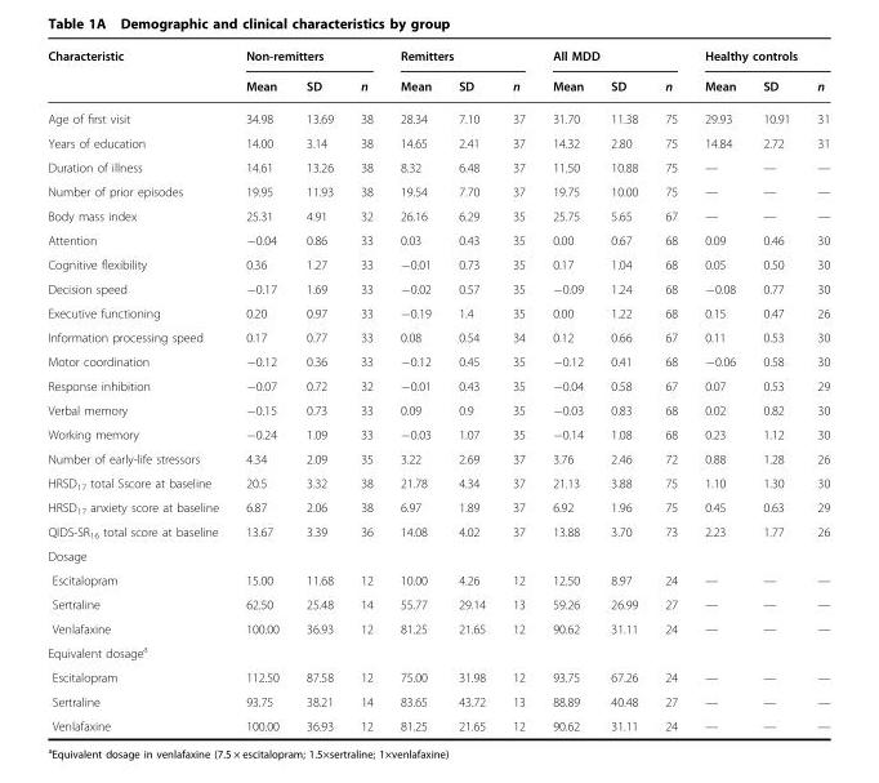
<table><thead><tr><td rowspan="2">Characteristic</td><td colspan="3">Non-remitters</td><td colspan="3">Remitters</td><td colspan="3">All MDD</td><td colspan="3">Healthy controls</td></tr><tr><td>Mean</td><td>SD</td><td>n</td><td>Mean</td><td>SD</td><td>n</td><td>Mean</td><td>SD</td><td>n</td><td>Mean</td><td>SD</td><td>n</td></tr></thead><tbody><tr><td>Age of first visit</td><td>34.98</td><td>13.69</td><td>38</td><td>28.34</td><td>7.10</td><td>37</td><td>31.70</td><td>11.38</td><td>75</td><td>29.93</td><td>10.91</td><td>31</td></tr><tr><td>Years of education</td><td>14.00</td><td>3.14</td><td>38</td><td>14.65</td><td>2.41</td><td>37</td><td>14.32</td><td>2.80</td><td>75</td><td>14.84</td><td>2.72</td><td>31</td></tr><tr><td>Duration of illness</td><td>14.61</td><td>13.26</td><td>38</td><td>8.32</td><td>6.48</td><td>37</td><td>11.50</td><td>10.88</td><td>75</td><td>—</td><td>—</td><td>—</td></tr><tr><td>Number of prior episodes</td><td>19.95</td><td>11.93</td><td>38</td><td>19.54</td><td>7.70</td><td>37</td><td>19.75</td><td>10.00</td><td>75</td><td>—</td><td>—</td><td>—</td></tr><tr><td>Body mass index</td><td>25.31</td><td>4.91</td><td>32</td><td>26.16</td><td>6.29</td><td>35</td><td>25.75</td><td>5.65</td><td>67</td><td>—</td><td>—</td><td>—</td></tr><tr><td>Attention</td><td>−0.04</td><td>0.86</td><td>33</td><td>0.03</td><td>0.43</td><td>35</td><td>0.00</td><td>0.67</td><td>68</td><td>0.09</td><td>0.46</td><td>30</td></tr><tr><td>Cognitive flexibility</td><td>0.36</td><td>1.27</td><td>33</td><td>−0.01</td><td>0.73</td><td>35</td><td>0.17</td><td>1.04</td><td>68</td><td>0.05</td><td>0.50</td><td>30</td></tr><tr><td>Decision speed</td><td>−0.17</td><td>1.69</td><td>33</td><td>−0.02</td><td>0.57</td><td>35</td><td>−0.09</td><td>1.24</td><td>68</td><td>−0.08</td><td>0.77</td><td>30</td></tr><tr><td>Executive functioning</td><td>0.20</td><td>0.97</td><td>33</td><td>−0.19</td><td>1.4</td><td>35</td><td>0.00</td><td>1.22</td><td>68</td><td>0.15</td><td>0.47</td><td>26</td></tr><tr><td>Information processing speed</td><td>0.17</td><td>0.77</td><td>33</td><td>0.08</td><td>0.54</td><td>34</td><td>0.12</td><td>0.66</td><td>67</td><td>0.11</td><td>0.53</td><td>30</td></tr><tr><td>Motor coordination</td><td>−0.12</td><td>0.36</td><td>33</td><td>−0.12</td><td>0.45</td><td>35</td><td>−0.12</td><td>0.41</td><td>68</td><td>−0.06</td><td>0.58</td><td>30</td></tr><tr><td>Response inhibition</td><td>−0.07</td><td>0.72</td><td>32</td><td>−0.01</td><td>0.43</td><td>35</td><td>−0.04</td><td>0.58</td><td>67</td><td>0.07</td><td>0.53</td><td>29</td></tr><tr><td>Verbal memory</td><td>−0.15</td><td>0.73</td><td>33</td><td>0.09</td><td>0.9</td><td>35</td><td>−0.03</td><td>0.83</td><td>68</td><td>0.02</td><td>0.82</td><td>30</td></tr><tr><td>Working memory</td><td>−0.24</td><td>1.09</td><td>33</td><td>−0.03</td><td>1.07</td><td>35</td><td>−0.14</td><td>1.08</td><td>68</td><td>0.23</td><td>1.12</td><td>30</td></tr><tr><td>Number of early-life stressors</td><td>4.34</td><td>2.09</td><td>35</td><td>3.22</td><td>2.69</td><td>37</td><td>3.76</td><td>2.46</td><td>72</td><td>0.88</td><td>1.28</td><td>26</td></tr><tr><td>HRSD<sub>17</sub> total Sscore at baseline</td><td>20.5</td><td>3.32</td><td>38</td><td>21.78</td><td>4.34</td><td>37</td><td>21.13</td><td>3.88</td><td>75</td><td>1.10</td><td>1.30</td><td>30</td></tr><tr><td>HRSD<sub>17</sub> anxiety score at baseline</td><td>6.87</td><td>2.06</td><td>38</td><td>6.97</td><td>1.89</td><td>37</td><td>6.92</td><td>1.96</td><td>75</td><td>0.45</td><td>0.63</td><td>29</td></tr><tr><td>QIDS-SR<sub>16</sub> total score at baseline</td><td>13.67</td><td>3.39</td><td>36</td><td>14.08</td><td>4.02</td><td>37</td><td>13.88</td><td>3.70</td><td>73</td><td>2.23</td><td>1.77</td><td>26</td></tr><tr><td colspan="13">Dosage</td></tr><tr><td>Escitalopram</td><td>15.00</td><td>11.68</td><td>12</td><td>10.00</td><td>4.26</td><td>12</td><td>12.50</td><td>8.97</td><td>24</td><td>—</td><td>—</td><td>—</td></tr><tr><td>Sertraline</td><td>62.50</td><td>25.48</td><td>14</td><td>55.77</td><td>29.14</td><td>13</td><td>59.26</td><td>26.99</td><td>27</td><td>—</td><td>—</td><td>—</td></tr><tr><td>Venlafaxine</td><td>100.00</td><td>36.93</td><td>12</td><td>81.25</td><td>21.65</td><td>12</td><td>90.62</td><td>31.11</td><td>24</td><td>—</td><td>—</td><td>—</td></tr><tr><td colspan="13">Equivalent dosage<sup>a</sup></td></tr><tr><td>Escitalopram</td><td>112.50</td><td>87.58</td><td>12</td><td>75.00</td><td>31.98</td><td>12</td><td>93.75</td><td>67.26</td><td>24</td><td>—</td><td>—</td><td>—</td></tr><tr><td>Sertraline</td><td>93.75</td><td>38.21</td><td>14</td><td>83.65</td><td>43.72</td><td>13</td><td>88.89</td><td>40.48</td><td>27</td><td>—</td><td>—</td><td>—</td></tr><tr><td>Venlafaxine</td><td>100.00</td><td>36.93</td><td>12</td><td>81.25</td><td>21.65</td><td>12</td><td>90.62</td><td>31.11</td><td>24</td><td>—</td><td>—</td><td>—</td></tr></tbody></table>